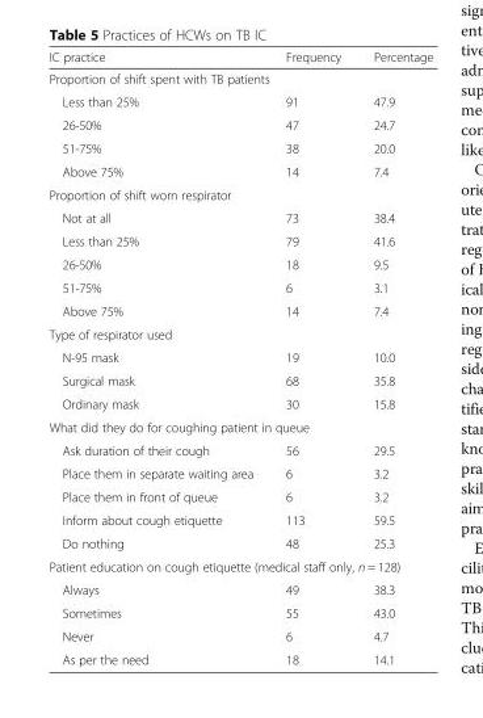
<table><thead><tr><td>IC practice</td><td>Frequency</td><td>Percentage</td></tr></thead><tbody><tr><td colspan="3">Proportion of shift spent with TB patients</td></tr><tr><td>Less than 25%</td><td>91</td><td>47.9</td></tr><tr><td>26-50%</td><td>47</td><td>24.7</td></tr><tr><td>51-75%</td><td>38</td><td>20.0</td></tr><tr><td>Above 75%</td><td>14</td><td>7.4</td></tr><tr><td colspan="3">Proportion of shift worn respirator</td></tr><tr><td>Not at all</td><td>73</td><td>38.4</td></tr><tr><td>Less than 25%</td><td>79</td><td>41.6</td></tr><tr><td>26-50%</td><td>18</td><td>9.5</td></tr><tr><td>51-75%</td><td>6</td><td>3.1</td></tr><tr><td>Above 75%</td><td>14</td><td>7.4</td></tr><tr><td colspan="3">Type of respirator used</td></tr><tr><td>N-95 mask</td><td>19</td><td>10.0</td></tr><tr><td>Surgical mask</td><td>68</td><td>35.8</td></tr><tr><td>Ordinary mask</td><td>30</td><td>15.8</td></tr><tr><td colspan="3">What did they do for coughing patient in queue</td></tr><tr><td>Ask duration of their cough</td><td>56</td><td>29.5</td></tr><tr><td>Place them in separate waiting area</td><td>6</td><td>3.2</td></tr><tr><td>Place them in front of queue</td><td>6</td><td>3.2</td></tr><tr><td>Inform about cough etiquette</td><td>113</td><td>59.5</td></tr><tr><td>Do nothing</td><td>48</td><td>25.3</td></tr><tr><td colspan="3">Patient education on cough etiquette (medical staff only, n = 128)</td></tr><tr><td>Always</td><td>49</td><td>38.3</td></tr><tr><td>Sometimes</td><td>55</td><td>43.0</td></tr><tr><td>Never</td><td>6</td><td>4.7</td></tr><tr><td>As per the need</td><td>18</td><td>14.1</td></tr></tbody></table>